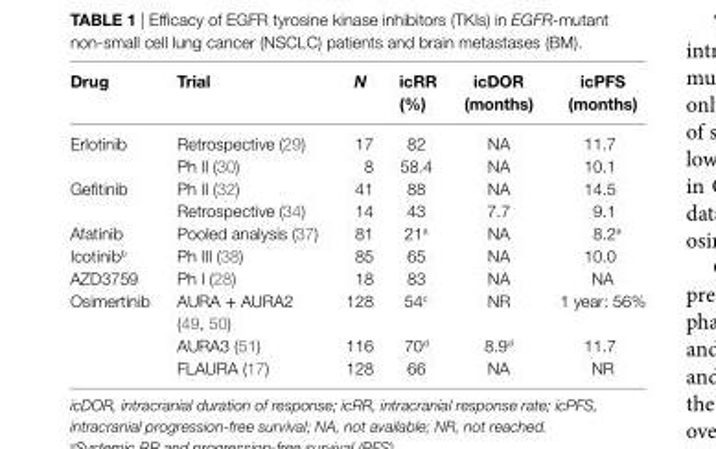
<table><thead><tr><td>Drug</td><td>Trial</td><td>N</td><td>icRR (%)</td><td>icDOR (months)</td><td>icPFS (months)</td></tr></thead><tbody><tr><td rowspan="2">Erlotinib</td><td>Retrospective (29)</td><td>17</td><td>82</td><td>NA</td><td>11.7</td></tr><tr><td>Ph II (30)</td><td>8</td><td>58.4</td><td>NA</td><td>10.1</td></tr><tr><td rowspan="2">Gefitinib</td><td>Ph II (32)</td><td>41</td><td>88</td><td>NA</td><td>14.5</td></tr><tr><td>Retrospective (34)</td><td>14</td><td>43</td><td>7.7</td><td>9.1</td></tr><tr><td>Afatinib</td><td>Pooled analysis (37)</td><td>81</td><td>21<sup>a</sup></td><td>NA</td><td>8.2<sup>a</sup></td></tr><tr><td>Icotinib<sup>b</sup></td><td>Ph III (38)</td><td>85</td><td>65</td><td>NA</td><td>10.0</td></tr><tr><td>AZD3759</td><td>Ph I (28)</td><td>18</td><td>83</td><td>NA</td><td>NA</td></tr><tr><td rowspan="3">Osimertinib</td><td>AURA + AURA2 (49, 50)</td><td>128</td><td>54<sup>c</sup></td><td>NR</td><td>1 year: 56%</td></tr><tr><td>AURA3 (51)</td><td>116</td><td>70<sup>d</sup></td><td>8.9<sup>d</sup></td><td>11.7</td></tr><tr><td>FLAURA (17)</td><td>128</td><td>66</td><td>NA</td><td>NR</td></tr></tbody></table>